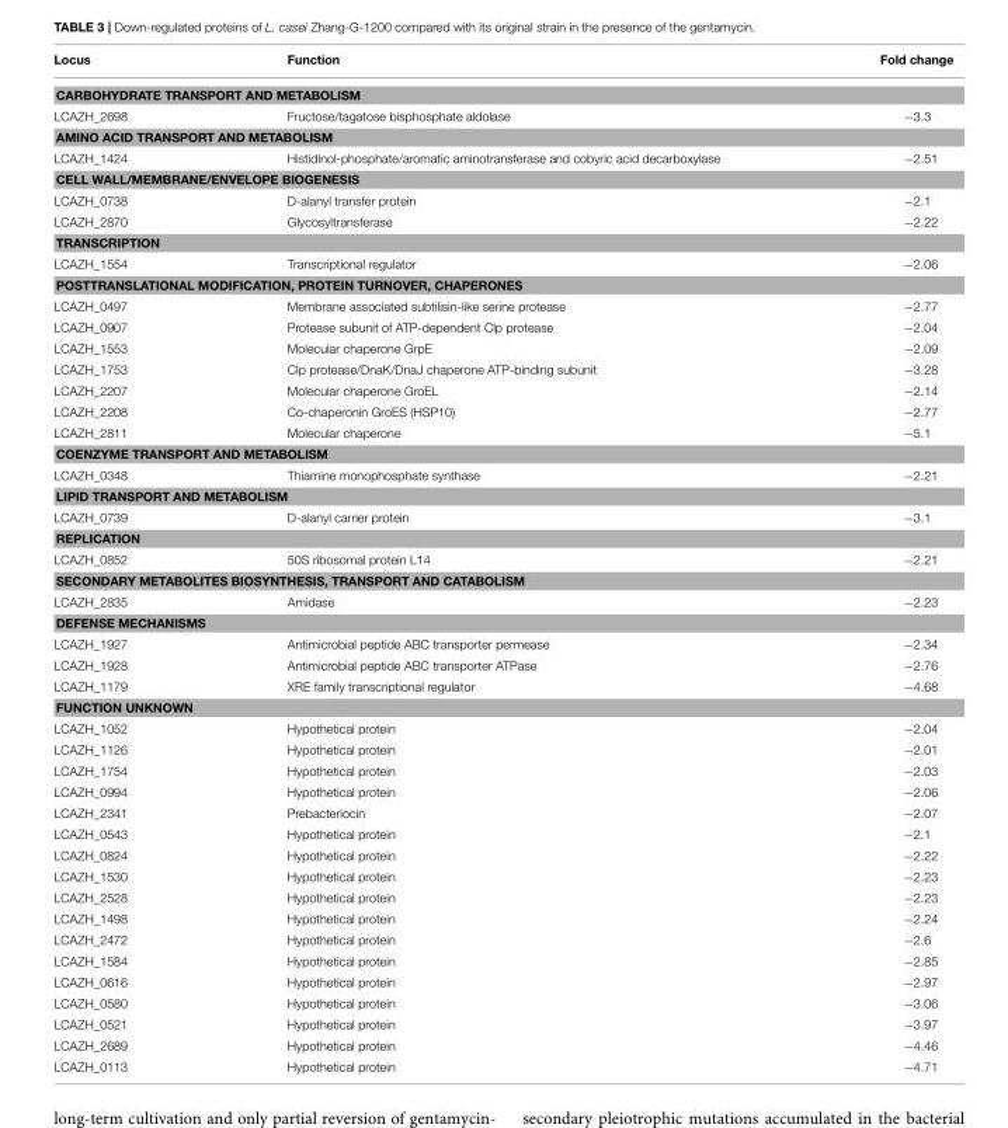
<table><thead><tr><td>Locus</td><td>Function</td><td>Fold change</td></tr></thead><tbody><tr><td colspan="3">CARBOHYDRATE TRANSPORT AND METABOLISM</td></tr><tr><td>LCAZH_2698</td><td>Fructose/tagatose bisphosphate aldolase</td><td>−3.3</td></tr><tr><td colspan="3">AMINO ACID TRANSPORT AND METABOLISM</td></tr><tr><td>LCAZH_1424</td><td>Histidinol-phosphate/aromatic aminotransferase and cobyric acid decarboxylase</td><td>−2.51</td></tr><tr><td colspan="3">CELL WALL/MEMBRANE/ENVELOPE BIOGENESIS</td></tr><tr><td>LCAZH_0738</td><td>D-alanyl transfer protein</td><td>−2.1</td></tr><tr><td>LCAZH_2870</td><td>Glycosyltransferase</td><td>−2.22</td></tr><tr><td colspan="3">TRANSCRIPTION</td></tr><tr><td>LCAZH_1554</td><td>Transcriptional regulator</td><td>−2.06</td></tr><tr><td colspan="3">POSTTRANSLATIONAL MODIFICATION, PROTEIN TURNOVER, CHAPERONES</td></tr><tr><td>LCAZH_0497</td><td>Membrane associated subtilisin-like serine protease</td><td>−2.77</td></tr><tr><td>LCAZH_0907</td><td>Protease subunit of ATP-dependent Clp protease</td><td>−2.04</td></tr><tr><td>LCAZH_1553</td><td>Molecular chaperone GrpE</td><td>−2.09</td></tr><tr><td>LCAZH_1753</td><td>Clp protease/DnaK/DnaJ chaperone ATP-binding subunit</td><td>−3.28</td></tr><tr><td>LCAZH_2207</td><td>Molecular chaperone GroEL</td><td>−2.14</td></tr><tr><td>LCAZH_2208</td><td>Co-chaperonin GroES (HSP10)</td><td>−2.77</td></tr><tr><td>LCAZH_2811</td><td>Molecular chaperone</td><td>−5.1</td></tr><tr><td colspan="3">COENZYME TRANSPORT AND METABOLISM</td></tr><tr><td>LCAZH_0348</td><td>Thiamine monophosphate synthase</td><td>−2.21</td></tr><tr><td colspan="3">LIPID TRANSPORT AND METABOLISM</td></tr><tr><td>LCAZH_0739</td><td>D-alanyl carrier protein</td><td>−3.1</td></tr><tr><td colspan="3">REPLICATION</td></tr><tr><td>LCAZH_0852</td><td>50S ribosomal protein L14</td><td>−2.21</td></tr><tr><td colspan="3">SECONDARY METABOLITES BIOSYNTHESIS, TRANSPORT AND CATABOLISM</td></tr><tr><td>LCAZH_2835</td><td>Amidase</td><td>−2.23</td></tr><tr><td colspan="3">DEFENSE MECHANISMS</td></tr><tr><td>LCAZH_1927</td><td>Antimicrobial peptide ABC transporter permease</td><td>−2.34</td></tr><tr><td>LCAZH_1928</td><td>Antimicrobial peptide ABC transporter ATPase</td><td>−2.76</td></tr><tr><td>LCAZH_1179</td><td>XRE family transcriptional regulator</td><td>−4.68</td></tr><tr><td colspan="3">FUNCTION UNKNOWN</td></tr><tr><td>LCAZH_1052</td><td>Hypothetical protein</td><td>−2.04</td></tr><tr><td>LCAZH_1126</td><td>Hypothetical protein</td><td>−2.01</td></tr><tr><td>LCAZH_1754</td><td>Hypothetical protein</td><td>−2.03</td></tr><tr><td>LCAZH_0994</td><td>Hypothetical protein</td><td>−2.06</td></tr><tr><td>LCAZH_2341</td><td>Prebacteriocin</td><td>−2.07</td></tr><tr><td>LCAZH_0543</td><td>Hypothetical protein</td><td>−2.1</td></tr><tr><td>LCAZH_0824</td><td>Hypothetical protein</td><td>−2.22</td></tr><tr><td>LCAZH_1530</td><td>Hypothetical protein</td><td>−2.23</td></tr><tr><td>LCAZH_2528</td><td>Hypothetical protein</td><td>−2.23</td></tr><tr><td>LCAZH_1498</td><td>Hypothetical protein</td><td>−2.24</td></tr><tr><td>LCAZH_2472</td><td>Hypothetical protein</td><td>−2.6</td></tr><tr><td>LCAZH_1584</td><td>Hypothetical protein</td><td>−2.85</td></tr><tr><td>LCAZH_0616</td><td>Hypothetical protein</td><td>−2.97</td></tr><tr><td>LCAZH_0580</td><td>Hypothetical protein</td><td>−3.06</td></tr><tr><td>LCAZH_0521</td><td>Hypothetical protein</td><td>−3.97</td></tr><tr><td>LCAZH_2689</td><td>Hypothetical protein</td><td>−4.46</td></tr><tr><td>LCAZH_0113</td><td>Hypothetical protein</td><td>−4.71</td></tr></tbody></table>